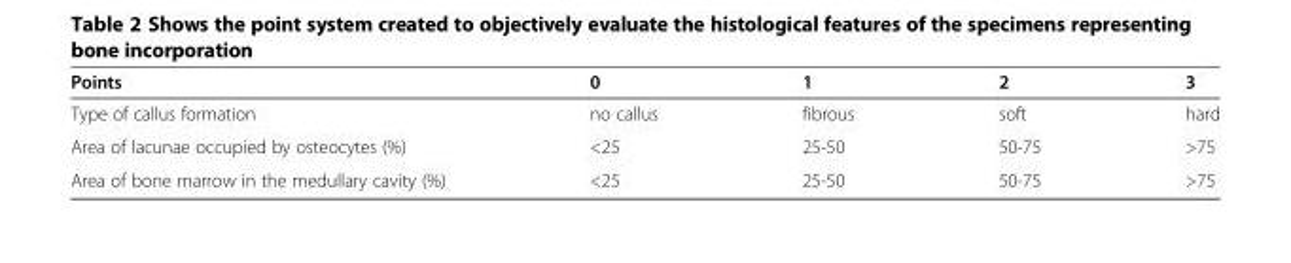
<table><thead><tr><td>Points</td><td>0</td><td>1</td><td>2</td><td>3</td></tr></thead><tbody><tr><td>Type of callus formation</td><td>no callus</td><td>fibrous</td><td>soft</td><td>hard</td></tr><tr><td>Area of lacunae occupied by osteocytes (%)</td><td>&lt;25</td><td>25-50</td><td>50-75</td><td>&gt;75</td></tr><tr><td>Area of bone marrow in the medullary cavity (%)</td><td>&lt;25</td><td>25-50</td><td>50-75</td><td>&gt;75</td></tr></tbody></table>